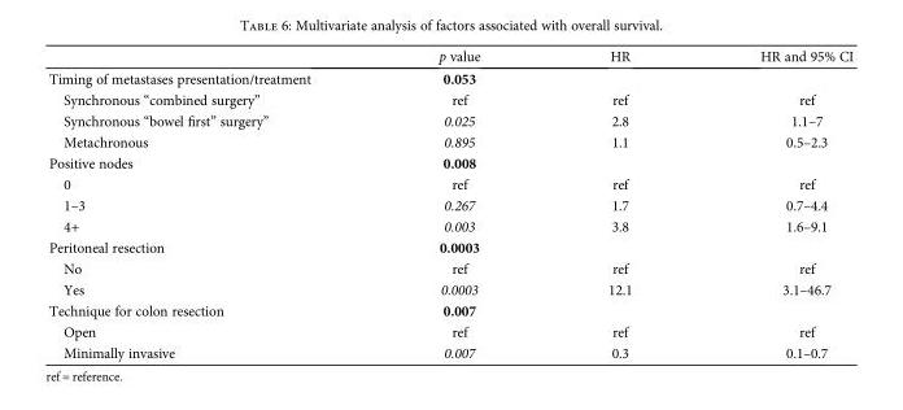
<table><thead><tr><td></td><td>p value</td><td>HR</td><td>HR and 95% CI</td></tr></thead><tbody><tr><td>Timing of metastases presentation/treatment</td><td>0.053</td><td></td><td></td></tr><tr><td>Synchronous “combined surgery”</td><td>ref</td><td>ref</td><td>ref</td></tr><tr><td>Synchronous “bowel first” surgery”</td><td>0.025</td><td>2.8</td><td>1.1–7</td></tr><tr><td>Metachronous</td><td>0.895</td><td>1.1</td><td>0.5–2.3</td></tr><tr><td>Positive nodes</td><td>0.008</td><td></td><td></td></tr><tr><td>0</td><td>ref</td><td>ref</td><td>ref</td></tr><tr><td>1–3</td><td>0.267</td><td>1.7</td><td>0.7–4.4</td></tr><tr><td>4+</td><td>0.003</td><td>3.8</td><td>1.6–9.1</td></tr><tr><td>Peritoneal resection</td><td>0.0003</td><td></td><td></td></tr><tr><td>No</td><td>ref</td><td>ref</td><td>ref</td></tr><tr><td>Yes</td><td>0.0003</td><td>12.1</td><td>3.1–46.7</td></tr><tr><td>Technique for colon resection</td><td>0.007</td><td></td><td></td></tr><tr><td>Open</td><td>ref</td><td>ref</td><td>ref</td></tr><tr><td>Minimally invasive</td><td>0.007</td><td>0.3</td><td>0.1–0.7</td></tr></tbody></table>